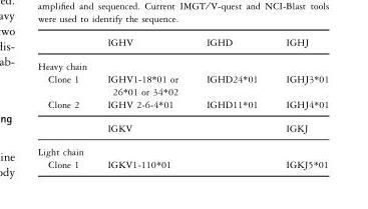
<table><thead><tr><td></td><td>IGHV</td><td>IGHD</td><td>IGHJ</td></tr></thead><tbody><tr><td colspan="4">Heavy chain</td></tr><tr><td>Clone 1</td><td>IGHV1-18*01 or 26*01 or 34*02</td><td>IGHD24*01</td><td>IGHJ3*01</td></tr><tr><td rowspan="2">Clone 2</td><td>IGHV 2-6-4*01</td><td>IGHD11*01</td><td>IGHJ4*01</td></tr><tr><td>IGKV</td><td></td><td>IGKJ</td></tr><tr><td colspan="4">Light chain</td></tr><tr><td>Clone 1</td><td colspan="2">IGKV1-110*01</td><td>IGKJ5*01</td></tr></tbody></table>